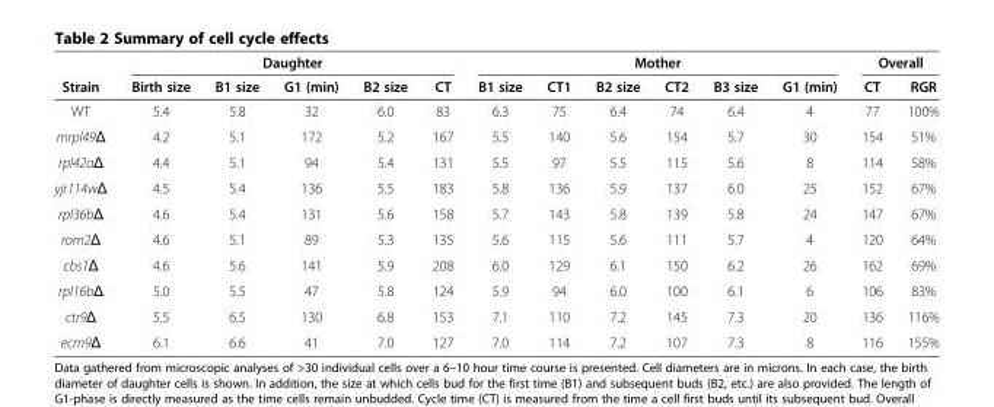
<table><thead><tr><td rowspan="2">Strain</td><td colspan="5">Daughter</td><td colspan="6">Mother</td><td colspan="2">Overall</td></tr><tr><td>Birth size</td><td>B1 size</td><td>G1 (min)</td><td>B2 size</td><td>CT</td><td>B1 size</td><td>CT1</td><td>B2 size</td><td>CT2</td><td>B3 size</td><td>G1 (min)</td><td>CT</td><td>RGR</td></tr></thead><tbody><tr><td>WT</td><td>5.4</td><td>5.8</td><td>32</td><td>6.0</td><td>83</td><td>6.3</td><td>75</td><td>6.4</td><td>74</td><td>6.4</td><td>4</td><td>77</td><td>100%</td></tr><tr><td>mrpl49Δ</td><td>4.2</td><td>5.1</td><td>172</td><td>5.2</td><td>167</td><td>5.5</td><td>140</td><td>5.6</td><td>154</td><td>5.7</td><td>30</td><td>154</td><td>51%</td></tr><tr><td>rpl42aΔ</td><td>4.4</td><td>5.1</td><td>94</td><td>5.4</td><td>131</td><td>5.5</td><td>97</td><td>5.5</td><td>115</td><td>5.6</td><td>8</td><td>114</td><td>58%</td></tr><tr><td>yjr114wΔ</td><td>4.5</td><td>5.4</td><td>136</td><td>5.5</td><td>183</td><td>5.8</td><td>136</td><td>5.9</td><td>137</td><td>6.0</td><td>25</td><td>152</td><td>67%</td></tr><tr><td>rpl36bΔ</td><td>4.6</td><td>5.4</td><td>131</td><td>5.6</td><td>158</td><td>5.7</td><td>143</td><td>5.8</td><td>139</td><td>5.8</td><td>24</td><td>147</td><td>67%</td></tr><tr><td>rom2Δ</td><td>4.6</td><td>5.1</td><td>89</td><td>5.3</td><td>135</td><td>5.6</td><td>115</td><td>5.6</td><td>111</td><td>5.7</td><td>4</td><td>120</td><td>64%</td></tr><tr><td>cbs1Δ</td><td>4.6</td><td>5.6</td><td>141</td><td>5.9</td><td>208</td><td>6.0</td><td>129</td><td>6.1</td><td>150</td><td>6.2</td><td>26</td><td>162</td><td>69%</td></tr><tr><td>rpl16bΔ</td><td>5.0</td><td>5.5</td><td>47</td><td>5.8</td><td>124</td><td>5.9</td><td>94</td><td>6.0</td><td>100</td><td>6.1</td><td>6</td><td>106</td><td>83%</td></tr><tr><td>ctr9Δ</td><td>5.5</td><td>6.5</td><td>130</td><td>6.8</td><td>153</td><td>7.1</td><td>110</td><td>7.2</td><td>145</td><td>7.3</td><td>20</td><td>136</td><td>116%</td></tr><tr><td>ecm9Δ</td><td>6.1</td><td>6.6</td><td>41</td><td>7.0</td><td>127</td><td>7.0</td><td>114</td><td>7.2</td><td>107</td><td>7.3</td><td>8</td><td>116</td><td>155%</td></tr></tbody></table>